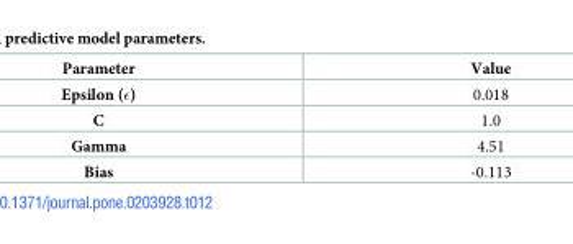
<table><thead><tr><td>Parameter</td><td>Value</td></tr></thead><tbody><tr><td>Epsilon (ϵ)</td><td>0.018</td></tr><tr><td>C</td><td>1.0</td></tr><tr><td>Gamma</td><td>4.51</td></tr><tr><td>Bias</td><td>-0.113</td></tr></tbody></table>